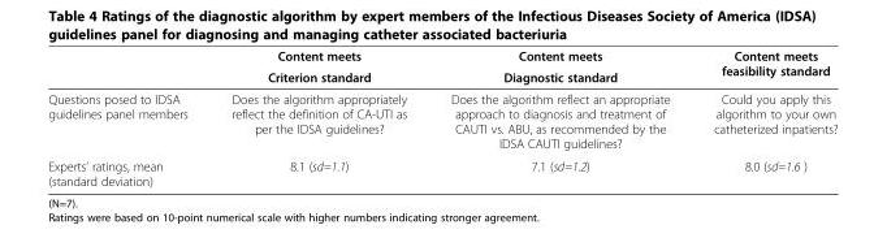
<table><thead><tr><td rowspan="2"></td><td rowspan="2">Content meets Criterion standard</td><td rowspan="2">Content meets Diagnostic standard</td><td rowspan="2">Content meets feasibility standard</td></tr><tr></tr></thead><tbody><tr><td>Questions posed to IDSA guidelines panel members</td><td>Does the algorithm appropriately reflect the definition of CA-UTI as per the IDSA guidelines?</td><td>Does the algorithm reflect an appropriate approach to diagnosis and treatment of CAUTI vs. ABU, as recommended by the IDSA CAUTI guidelines?</td><td>Could you apply this algorithm to your own catheterized inpatients?</td></tr><tr><td>Experts’ ratings, mean (standard deviation)</td><td>8.1 (sd=1.1)</td><td>7.1 (sd=1.2)</td><td>8.0 (sd=1.6 )</td></tr></tbody></table>